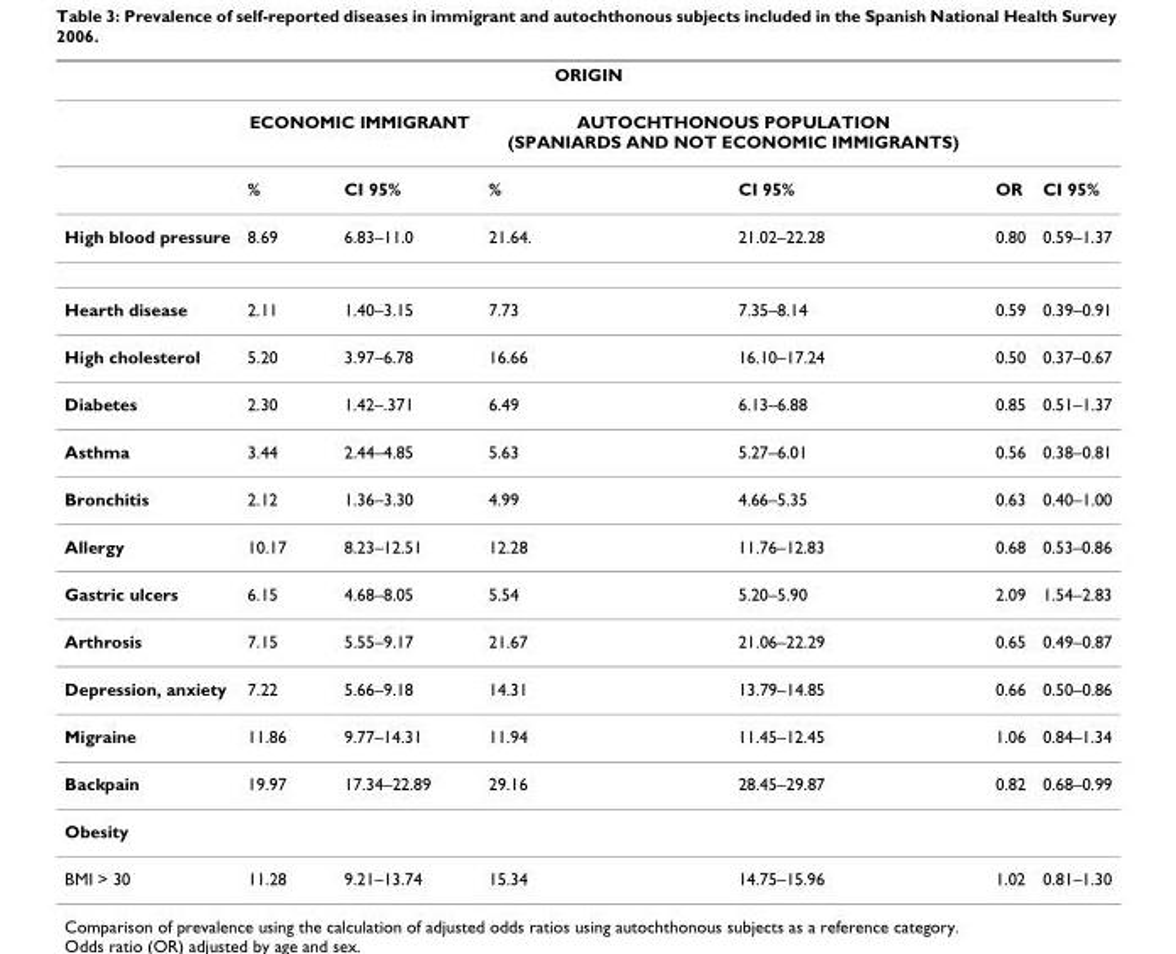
<table><thead><tr><td colspan="7">ORIGIN</td></tr><tr><td rowspan="2"></td><td colspan="2">ECONOMIC IMMIGRANT</td><td colspan="2">AUTOCHTHONOUS POPULATION (SPANIARDS AND NOT ECONOMIC IMMIGRANTS)</td><td rowspan="2">OR</td><td rowspan="2">CI 95%</td></tr><tr><td>%</td><td>CI 95%</td><td>%</td><td>CI 95%</td></tr></thead><tbody><tr><td>High blood pressure</td><td>8.69</td><td>6.83–11.0</td><td>21.64.</td><td>21.02–22.28</td><td>0.80</td><td>0.59–1.37</td></tr><tr><td>Hearth disease</td><td>2.11</td><td>1.40–3.15</td><td>7.73</td><td>7.35–8.14</td><td>0.59</td><td>0.39–0.91</td></tr><tr><td>High cholesterol</td><td>5.20</td><td>3.97–6.78</td><td>16.66</td><td>16.10–17.24</td><td>0.50</td><td>0.37–0.67</td></tr><tr><td>Diabetes</td><td>2.30</td><td>1.42–.371</td><td>6.49</td><td>6.13–6.88</td><td>0.85</td><td>0.51–1.37</td></tr><tr><td>Asthma</td><td>3.44</td><td>2.44–4.85</td><td>5.63</td><td>5.27–6.01</td><td>0.56</td><td>0.38–0.81</td></tr><tr><td>Bronchitis</td><td>2.12</td><td>1.36–3.30</td><td>4.99</td><td>4.66–5.35</td><td>0.63</td><td>0.40–1.00</td></tr><tr><td>Allergy</td><td>10.17</td><td>8.23–12.51</td><td>12.28</td><td>11.76–12.83</td><td>0.68</td><td>0.53–0.86</td></tr><tr><td>Gastric ulcers</td><td>6.15</td><td>4.68–8.05</td><td>5.54</td><td>5.20–5.90</td><td>2.09</td><td>1.54–2.83</td></tr><tr><td>Arthrosis</td><td>7.15</td><td>5.55–9.17</td><td>21.67</td><td>21.06–22.29</td><td>0.65</td><td>0.49–0.87</td></tr><tr><td>Depression, anxiety</td><td>7.22</td><td>5.66–9.18</td><td>14.31</td><td>13.79–14.85</td><td>0.66</td><td>0.50–0.86</td></tr><tr><td>Migraine</td><td>11.86</td><td>9.77–14.31</td><td>11.94</td><td>11.45–12.45</td><td>1.06</td><td>0.84–1.34</td></tr><tr><td>Backpain</td><td>19.97</td><td>17.34–22.89</td><td>29.16</td><td>28.45–29.87</td><td>0.82</td><td>0.68–0.99</td></tr><tr><td colspan="7">Obesity</td></tr><tr><td>BMI &gt; 30</td><td>11.28</td><td>9.21–13.74</td><td>15.34</td><td>14.75–15.96</td><td>1.02</td><td>0.81–1.30</td></tr></tbody></table>